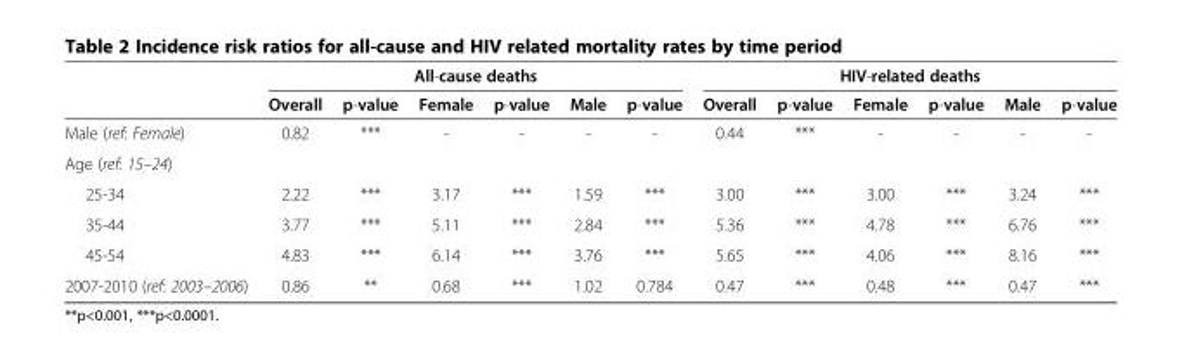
<table><thead><tr><td rowspan="2"></td><td colspan="6">All-cause deaths</td><td colspan="6">HIV-related deaths</td></tr><tr><td>Overall</td><td>p-value</td><td>Female</td><td>p-value</td><td>Male</td><td>p-value</td><td>Overall</td><td>p-value</td><td>Female</td><td>p-value</td><td>Male</td><td>p-value</td></tr></thead><tbody><tr><td>Male (ref: Female)</td><td>0.82</td><td>***</td><td>-</td><td>-</td><td>-</td><td>-</td><td>0.44</td><td>***</td><td>-</td><td>-</td><td>-</td><td>-</td></tr><tr><td colspan="13">Age (ref: 15–24)</td></tr><tr><td>25-34</td><td>2.22</td><td>***</td><td>3.17</td><td>***</td><td>1.59</td><td>***</td><td>3.00</td><td>***</td><td>3.00</td><td>***</td><td>3.24</td><td>***</td></tr><tr><td>35-44</td><td>3.77</td><td>***</td><td>5.11</td><td>***</td><td>2.84</td><td>***</td><td>5.36</td><td>***</td><td>4.78</td><td>***</td><td>6.76</td><td>***</td></tr><tr><td>45-54</td><td>4.83</td><td>***</td><td>6.14</td><td>***</td><td>3.76</td><td>***</td><td>5.65</td><td>***</td><td>4.06</td><td>***</td><td>8.16</td><td>***</td></tr><tr><td>2007-2010 (ref: 2003–2006)</td><td>0.86</td><td>**</td><td>0.68</td><td>***</td><td>1.02</td><td>0.784</td><td>0.47</td><td>***</td><td>0.48</td><td>***</td><td>0.47</td><td>***</td></tr></tbody></table>